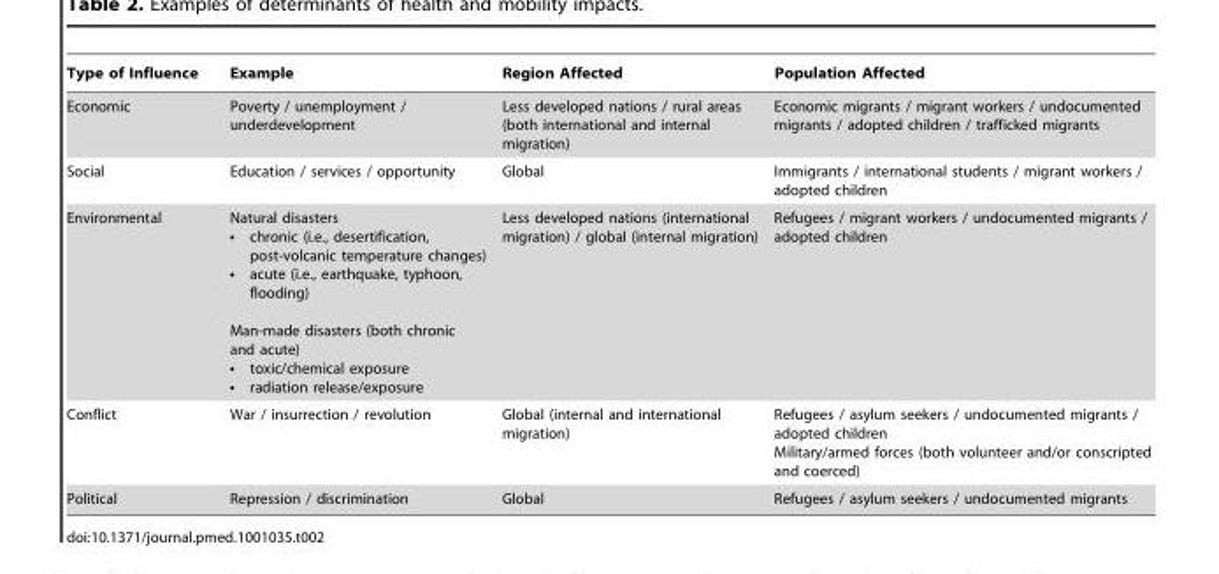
<table><thead><tr><td>Type of Influence</td><td>Example</td><td>Region Affected</td><td>Population Affected</td></tr></thead><tbody><tr><td>Economic</td><td>Poverty / unemployment / underdevelopment</td><td>Less developed nations / rural areas (both international and internal migration)</td><td>Economic migrants / migrant workers / undocumented migrants / adopted children / trafficked migrants</td></tr><tr><td>Social</td><td>Education / services / opportunity</td><td>Global</td><td>Immigrants / international students / migrant workers / adopted children</td></tr><tr><td>Environmental</td><td>Natural disasters • chronic (i.e., desertification, post-volcanic temperature changes) • acute (i.e., earthquake, typhoon, flooding) Man-made disasters (both chronic and acute) • toxic/chemical exposure • radiation release/exposure</td><td>Less developed nations (international migration) / global (internal migration)</td><td>Refugees / migrant workers / undocumented migrants / adopted children</td></tr><tr><td>Conflict</td><td>War / insurrection / revolution</td><td>Global (internal and international migration)</td><td>Refugees / asylum seekers / undocumented migrants / adopted children Military/armed forces (both volunteer and/or conscripted and coerced)</td></tr><tr><td>Political</td><td>Repression / discrimination</td><td>Global</td><td>Refugees / asylum seekers / undocumented migrants</td></tr></tbody></table>